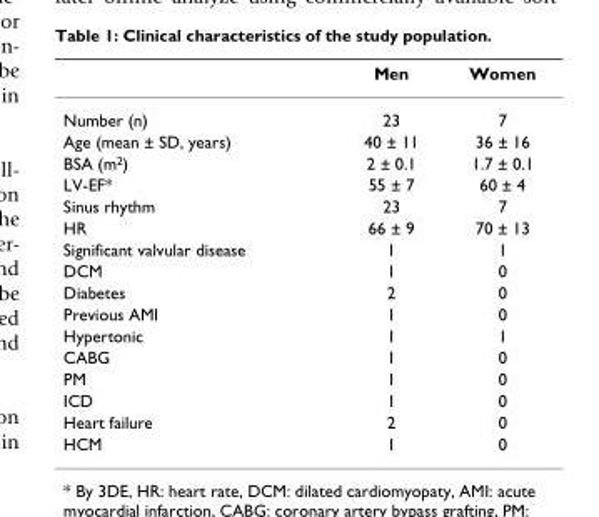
<table><thead><tr><td></td><td>Men</td><td>Women</td></tr></thead><tbody><tr><td>Number (n)</td><td>23</td><td>7</td></tr><tr><td>Age (mean ± SD, years)</td><td>40 ± 11</td><td>36 ± 16</td></tr><tr><td>BSA (m<sup>2</sup>)</td><td>2 ± 0.1</td><td>1.7 ± 0.1</td></tr><tr><td>LV-EF*</td><td>55 ± 7</td><td>60 ± 4</td></tr><tr><td>Sinus rhythm</td><td>23</td><td>7</td></tr><tr><td>HR</td><td>66 ± 9</td><td>70 ± 13</td></tr><tr><td>Significant valvular disease</td><td>1</td><td>1</td></tr><tr><td>DCM</td><td>1</td><td>0</td></tr><tr><td>Diabetes</td><td>2</td><td>0</td></tr><tr><td>Previous AMI</td><td>1</td><td>0</td></tr><tr><td>Hypertonic</td><td>1</td><td>1</td></tr><tr><td>CABG</td><td>1</td><td>0</td></tr><tr><td>PM</td><td>1</td><td>0</td></tr><tr><td>ICD</td><td>1</td><td>0</td></tr><tr><td>Heart failure</td><td>2</td><td>0</td></tr><tr><td>HCM</td><td>1</td><td>0</td></tr></tbody></table>